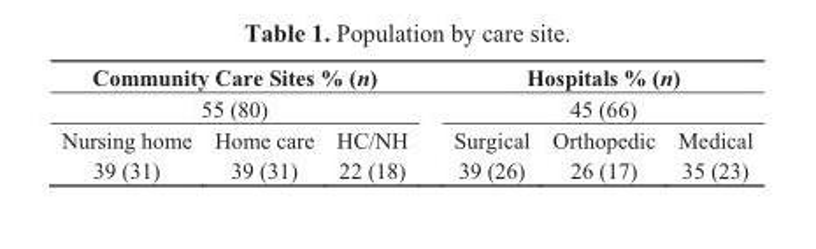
<table><thead><tr><td rowspan="2" colspan="3">Community Care Sites % (n) 55 (80)</td><td rowspan="2" colspan="3">Hospitals % (n) 45 (66)</td></tr><tr></tr><tr><td>Nursing home</td><td>Home care</td><td>HC/NH</td><td>Surgical</td><td>Orthopedic</td><td>Medical</td></tr></thead><tbody><tr><td>39 (31)</td><td>39 (31)</td><td>22 (18)</td><td>39 (26)</td><td>26 (17)</td><td>35 (23)</td></tr></tbody></table>